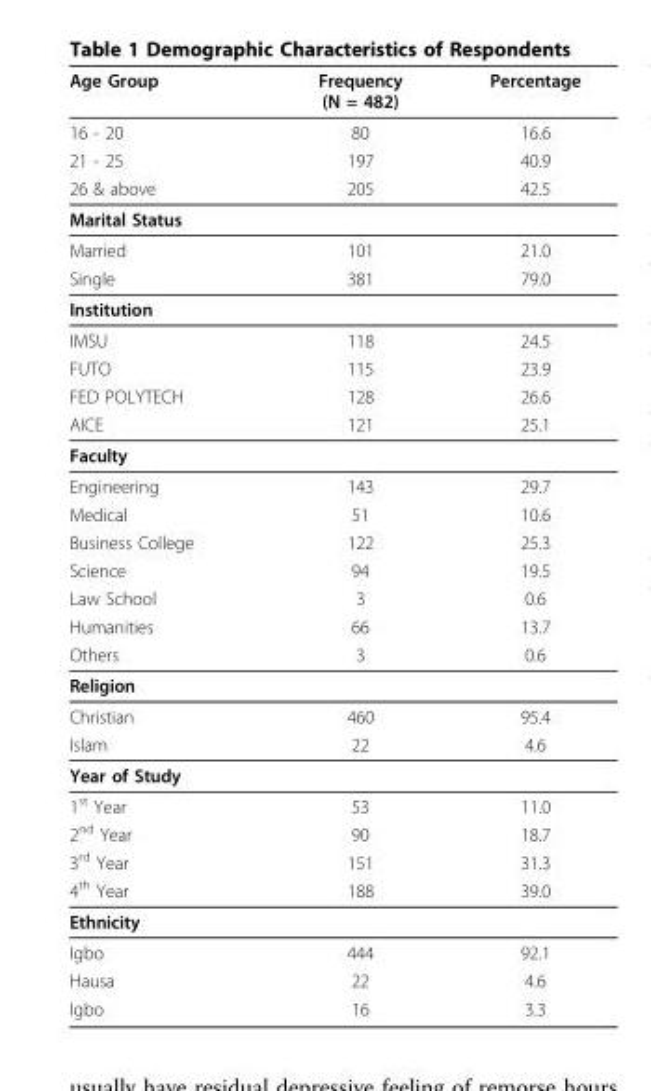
<table><thead><tr><td>Age Group</td><td>Frequency (N = 482)</td><td>Percentage</td></tr></thead><tbody><tr><td>16 - 20</td><td>80</td><td>16.6</td></tr><tr><td>21 - 25</td><td>197</td><td>40.9</td></tr><tr><td>26 &amp; above</td><td>205</td><td>42.5</td></tr><tr><td colspan="3">Marital Status</td></tr><tr><td>Married</td><td>101</td><td>21.0</td></tr><tr><td>Single</td><td>381</td><td>79.0</td></tr><tr><td colspan="3">Institution</td></tr><tr><td>IMSU</td><td>118</td><td>24.5</td></tr><tr><td>FUTO</td><td>115</td><td>23.9</td></tr><tr><td>FED POLYTECH</td><td>128</td><td>26.6</td></tr><tr><td>AICE</td><td>121</td><td>25.1</td></tr><tr><td colspan="3">Faculty</td></tr><tr><td>Engineering</td><td>143</td><td>29.7</td></tr><tr><td>Medical</td><td>51</td><td>10.6</td></tr><tr><td>Business College</td><td>122</td><td>25.3</td></tr><tr><td>Science</td><td>94</td><td>19.5</td></tr><tr><td>Law School</td><td>3</td><td>0.6</td></tr><tr><td>Humanities</td><td>66</td><td>13.7</td></tr><tr><td>Others</td><td>3</td><td>0.6</td></tr><tr><td colspan="3">Religion</td></tr><tr><td>Christian</td><td>460</td><td>95.4</td></tr><tr><td>Islam</td><td>22</td><td>4.6</td></tr><tr><td colspan="3">Year of Study</td></tr><tr><td>1<sup>st</sup> Year</td><td>53</td><td>11.0</td></tr><tr><td>2<sup>nd</sup> Year</td><td>90</td><td>18.7</td></tr><tr><td>3<sup>rd</sup> Year</td><td>151</td><td>31.3</td></tr><tr><td>4<sup>th</sup> Year</td><td>188</td><td>39.0</td></tr><tr><td colspan="3">Ethnicity</td></tr><tr><td>Igbo</td><td>444</td><td>92.1</td></tr><tr><td>Hausa</td><td>22</td><td>4.6</td></tr><tr><td>Igbo</td><td>16</td><td>3.3</td></tr></tbody></table>